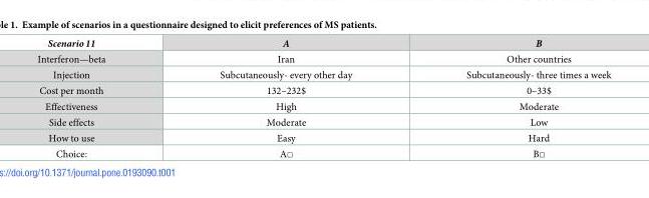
<table><thead><tr><td>Scenario 11</td><td>A</td><td>B</td></tr></thead><tbody><tr><td>Interferon—beta</td><td>Iran</td><td>Other countries</td></tr><tr><td>Injection</td><td>Subcutaneously- every other day</td><td>Subcutaneously- three times a week</td></tr><tr><td>Cost per month</td><td>132–232$</td><td>0–33$</td></tr><tr><td>Effectiveness</td><td>High</td><td>Moderate</td></tr><tr><td>Side effects</td><td>Moderate</td><td>Low</td></tr><tr><td>How to use</td><td>Easy</td><td>Hard</td></tr><tr><td>Choice:</td><td>A□</td><td>B□</td></tr></tbody></table>